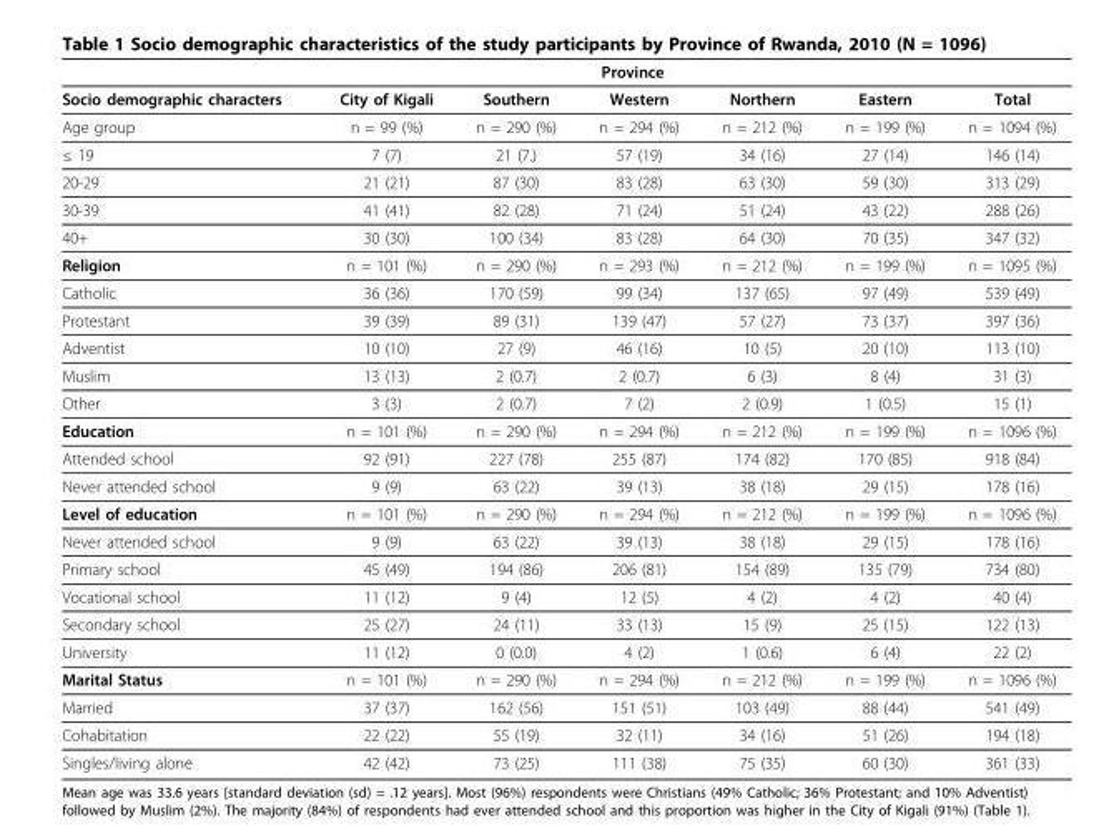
<table><thead><tr><td rowspan="2">Socio demographic characters</td><td colspan="5">Province</td><td rowspan="2">Total</td></tr><tr><td>City of Kigali</td><td>Southern</td><td>Western</td><td>Northern</td><td>Eastern</td></tr></thead><tbody><tr><td>Age group</td><td>n = 99 (%)</td><td>n = 290 (%)</td><td>n = 294 (%)</td><td>n = 212 (%)</td><td>n = 199 (%)</td><td>n = 1094 (%)</td></tr><tr><td>≤ 19</td><td>7 (7)</td><td>21 (7.)</td><td>57 (19)</td><td>34 (16)</td><td>27 (14)</td><td>146 (14)</td></tr><tr><td>20-29</td><td>21 (21)</td><td>87 (30)</td><td>83 (28)</td><td>63 (30)</td><td>59 (30)</td><td>313 (29)</td></tr><tr><td>30-39</td><td>41 (41)</td><td>82 (28)</td><td>71 (24)</td><td>51 (24)</td><td>43 (22)</td><td>288 (26)</td></tr><tr><td>40+</td><td>30 (30)</td><td>100 (34)</td><td>83 (28)</td><td>64 (30)</td><td>70 (35)</td><td>347 (32)</td></tr><tr><td>Religion</td><td>n = 101 (%)</td><td>n = 290 (%)</td><td>n = 293 (%)</td><td>n = 212 (%)</td><td>n = 199 (%)</td><td>n = 1095 (%)</td></tr><tr><td>Catholic</td><td>36 (36)</td><td>170 (59)</td><td>99 (34)</td><td>137 (65)</td><td>97 (49)</td><td>539 (49)</td></tr><tr><td>Protestant</td><td>39 (39)</td><td>89 (31)</td><td>139 (47)</td><td>57 (27)</td><td>73 (37)</td><td>397 (36)</td></tr><tr><td>Adventist</td><td>10 (10)</td><td>27 (9)</td><td>46 (16)</td><td>10 (5)</td><td>20 (10)</td><td>113 (10)</td></tr><tr><td>Muslim</td><td>13 (13)</td><td>2 (0.7)</td><td>2 (0.7)</td><td>6 (3)</td><td>8 (4)</td><td>31 (3)</td></tr><tr><td>Other</td><td>3 (3)</td><td>2 (0.7)</td><td>7 (2)</td><td>2 (0.9)</td><td>1 (0.5)</td><td>15 (1)</td></tr><tr><td>Education</td><td>n = 101 (%)</td><td>n = 290 (%)</td><td>n = 294 (%)</td><td>n = 212 (%)</td><td>n = 199 (%)</td><td>n = 1096 (%)</td></tr><tr><td>Attended school</td><td>92 (91)</td><td>227 (78)</td><td>255 (87)</td><td>174 (82)</td><td>170 (85)</td><td>918 (84)</td></tr><tr><td>Never attended school</td><td>9 (9)</td><td>63 (22)</td><td>39 (13)</td><td>38 (18)</td><td>29 (15)</td><td>178 (16)</td></tr><tr><td>Level of education</td><td>n = 101 (%)</td><td>n = 290 (%)</td><td>n = 294 (%)</td><td>n = 212 (%)</td><td>n = 199 (%)</td><td>n = 1096 (%)</td></tr><tr><td>Never attended school</td><td>9 (9)</td><td>63 (22)</td><td>39 (13)</td><td>38 (18)</td><td>29 (15)</td><td>178 (16)</td></tr><tr><td>Primary school</td><td>45 (49)</td><td>194 (86)</td><td>206 (81)</td><td>154 (89)</td><td>135 (79)</td><td>734 (80)</td></tr><tr><td>Vocational school</td><td>11 (12)</td><td>9 (4)</td><td>12 (5)</td><td>4 (2)</td><td>4 (2)</td><td>40 (4)</td></tr><tr><td>Secondary school</td><td>25 (27)</td><td>24 (11)</td><td>33 (13)</td><td>15 (9)</td><td>25 (15)</td><td>122 (13)</td></tr><tr><td>University</td><td>11 (12)</td><td>0 (0.0)</td><td>4 (2)</td><td>1 (0.6)</td><td>6 (4)</td><td>22 (2)</td></tr><tr><td>Marital Status</td><td>n = 101 (%)</td><td>n = 290 (%)</td><td>n = 294 (%)</td><td>n = 212 (%)</td><td>n = 199 (%)</td><td>n = 1096 (%)</td></tr><tr><td>Married</td><td>37 (37)</td><td>162 (56)</td><td>151 (51)</td><td>103 (49)</td><td>88 (44)</td><td>541 (49)</td></tr><tr><td>Cohabitation</td><td>22 (22)</td><td>55 (19)</td><td>32 (11)</td><td>34 (16)</td><td>51 (26)</td><td>194 (18)</td></tr><tr><td>Singles/living alone</td><td>42 (42)</td><td>73 (25)</td><td>111 (38)</td><td>75 (35)</td><td>60 (30)</td><td>361 (33)</td></tr></tbody></table>